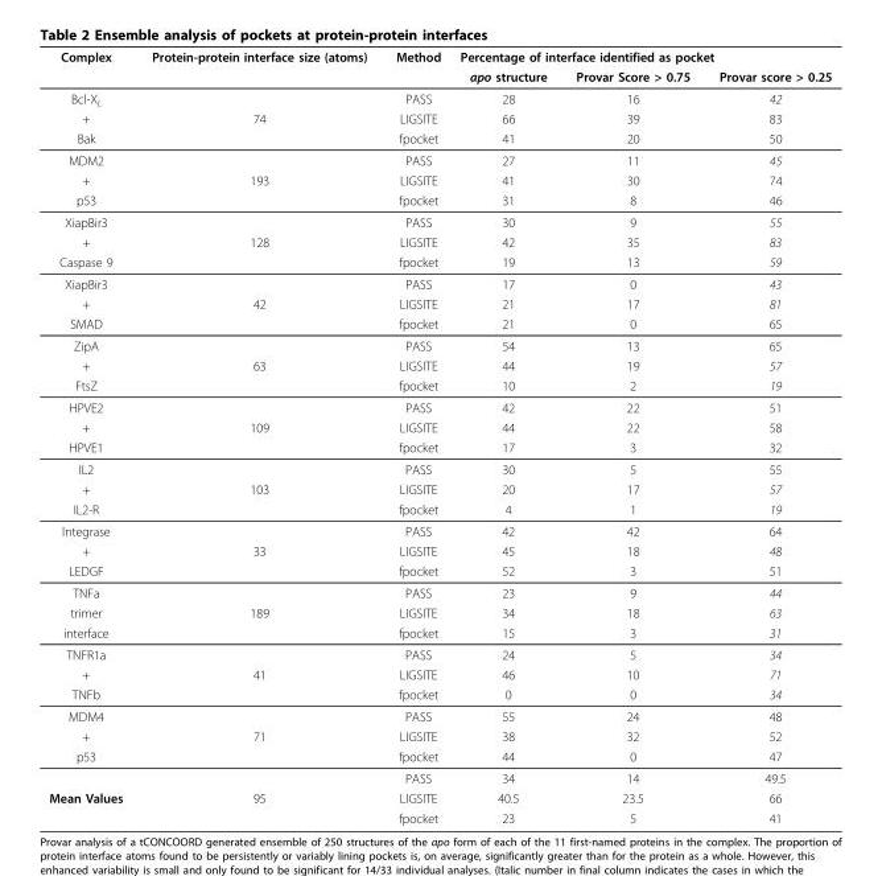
<table><thead><tr><td rowspan="2">Complex</td><td rowspan="2">Protein-protein interface size (atoms)</td><td rowspan="2">Method</td><td colspan="3">Percentage of interface identified as pocket</td></tr><tr><td>apo structure</td><td>Provar Score &gt; 0.75</td><td>Provar score &gt; 0.25</td></tr></thead><tbody><tr><td>Bcl-X<sub>L</sub></td><td></td><td>PASS</td><td>28</td><td>16</td><td>42</td></tr><tr><td>+</td><td>74</td><td>LIGSITE</td><td>66</td><td>39</td><td>83</td></tr><tr><td>Bak</td><td></td><td>fpocket</td><td>41</td><td>20</td><td>50</td></tr><tr><td>MDM2</td><td></td><td>PASS</td><td>27</td><td>11</td><td>45</td></tr><tr><td>+</td><td>193</td><td>LIGSITE</td><td>41</td><td>30</td><td>74</td></tr><tr><td>p53</td><td></td><td>fpocket</td><td>31</td><td>8</td><td>46</td></tr><tr><td>XiapBir3</td><td></td><td>PASS</td><td>30</td><td>9</td><td>55</td></tr><tr><td>+</td><td>128</td><td>LIGSITE</td><td>42</td><td>35</td><td>83</td></tr><tr><td>Caspase 9</td><td></td><td>fpocket</td><td>19</td><td>13</td><td>59</td></tr><tr><td>XiapBir3</td><td></td><td>PASS</td><td>17</td><td>0</td><td>43</td></tr><tr><td>+</td><td>42</td><td>LIGSITE</td><td>21</td><td>17</td><td>81</td></tr><tr><td>SMAD</td><td></td><td>fpocket</td><td>21</td><td>0</td><td>65</td></tr><tr><td>ZipA</td><td></td><td>PASS</td><td>54</td><td>13</td><td>65</td></tr><tr><td>+</td><td>63</td><td>LIGSITE</td><td>44</td><td>19</td><td>57</td></tr><tr><td>FtsZ</td><td></td><td>fpocket</td><td>10</td><td>2</td><td>19</td></tr><tr><td>HPVE2</td><td></td><td>PASS</td><td>42</td><td>22</td><td>51</td></tr><tr><td>+</td><td>109</td><td>LIGSITE</td><td>44</td><td>22</td><td>58</td></tr><tr><td>HPVE1</td><td></td><td>fpocket</td><td>17</td><td>3</td><td>32</td></tr><tr><td>IL2</td><td></td><td>PASS</td><td>30</td><td>5</td><td>55</td></tr><tr><td>+</td><td>103</td><td>LIGSITE</td><td>20</td><td>17</td><td>57</td></tr><tr><td>IL2-R</td><td></td><td>fpocket</td><td>4</td><td>1</td><td>19</td></tr><tr><td>Integrase</td><td></td><td>PASS</td><td>42</td><td>42</td><td>64</td></tr><tr><td>+</td><td>33</td><td>LIGSITE</td><td>45</td><td>18</td><td>48</td></tr><tr><td>LEDGF</td><td></td><td>fpocket</td><td>52</td><td>3</td><td>51</td></tr><tr><td>TNFa</td><td></td><td>PASS</td><td>23</td><td>9</td><td>44</td></tr><tr><td>trimer</td><td>189</td><td>LIGSITE</td><td>34</td><td>18</td><td>63</td></tr><tr><td>interface</td><td></td><td>fpocket</td><td>15</td><td>3</td><td>31</td></tr><tr><td>TNFR1a</td><td></td><td>PASS</td><td>24</td><td>5</td><td>34</td></tr><tr><td>+</td><td>41</td><td>LIGSITE</td><td>46</td><td>10</td><td>71</td></tr><tr><td>TNFb</td><td></td><td>fpocket</td><td>0</td><td>0</td><td>34</td></tr><tr><td>MDM4</td><td></td><td>PASS</td><td>55</td><td>24</td><td>48</td></tr><tr><td>+</td><td>71</td><td>LIGSITE</td><td>38</td><td>32</td><td>52</td></tr><tr><td rowspan="2">p53</td><td></td><td>fpocket</td><td>44</td><td>0</td><td>47</td></tr><tr><td></td><td>PASS</td><td>34</td><td>14</td><td>49.5</td></tr><tr><td rowspan="2">Mean Values</td><td>95</td><td>LIGSITE</td><td>40.5</td><td>23.5</td><td>66</td></tr><tr><td></td><td>fpocket</td><td>23</td><td>5</td><td>41</td></tr></tbody></table>